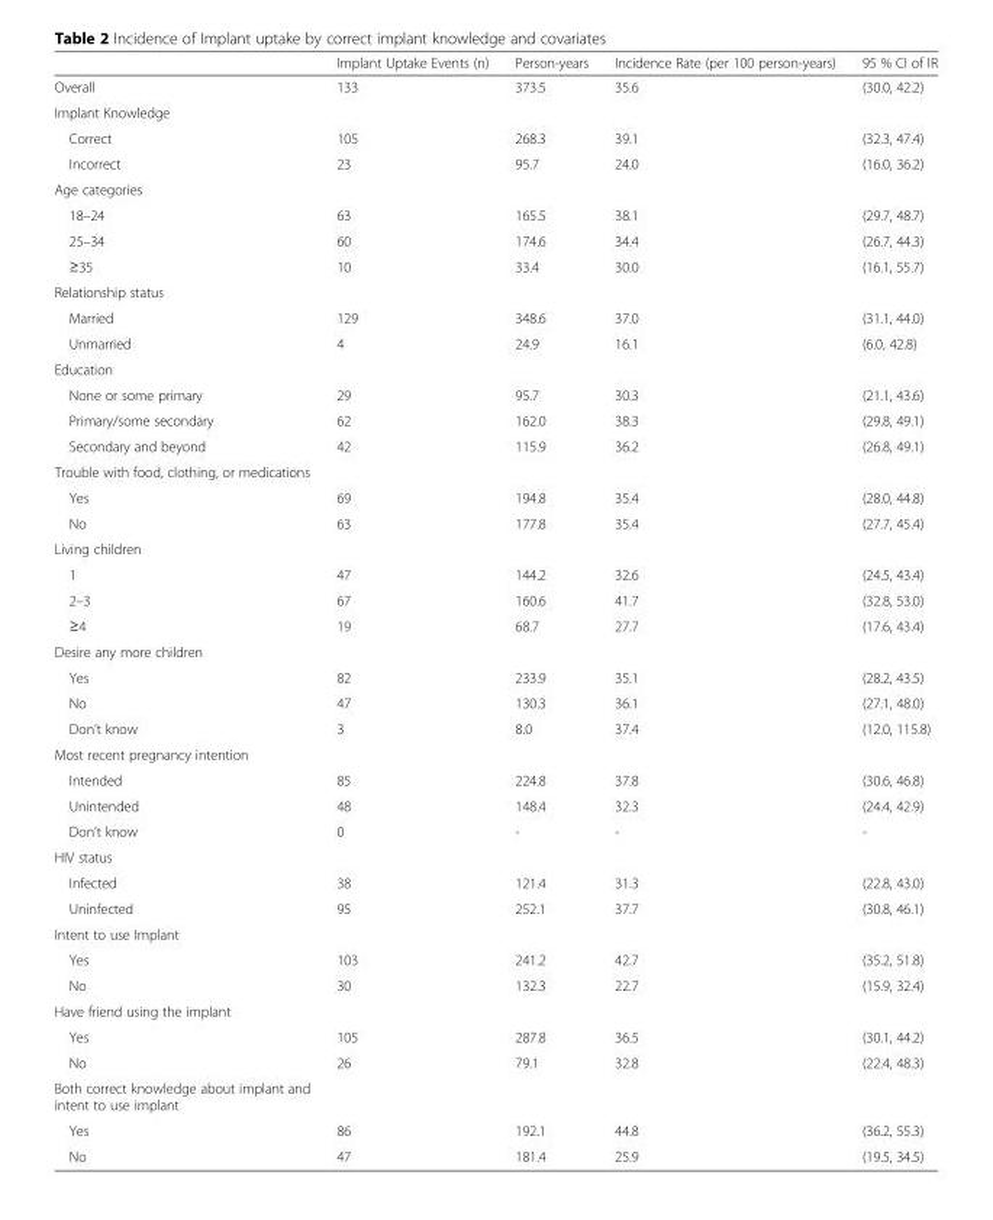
<table><thead><tr><td></td><td>Implant Uptake Events (n)</td><td>Person-years</td><td>Incidence Rate (per 100 person-years)</td><td>95 % CI of IR</td></tr></thead><tbody><tr><td>Overall</td><td>133</td><td>373.5</td><td>35.6</td><td>(30.0, 42.2)</td></tr><tr><td colspan="5">Implant Knowledge</td></tr><tr><td>Correct</td><td>105</td><td>268.3</td><td>39.1</td><td>(32.3, 47.4)</td></tr><tr><td>Incorrect</td><td>23</td><td>95.7</td><td>24.0</td><td>(16.0, 36.2)</td></tr><tr><td colspan="5">Age categories</td></tr><tr><td>18–24</td><td>63</td><td>165.5</td><td>38.1</td><td>(29.7, 48.7)</td></tr><tr><td>25–34</td><td>60</td><td>174.6</td><td>34.4</td><td>(26.7, 44.3)</td></tr><tr><td>≥35</td><td>10</td><td>33.4</td><td>30.0</td><td>(16.1, 55.7)</td></tr><tr><td colspan="5">Relationship status</td></tr><tr><td>Married</td><td>129</td><td>348.6</td><td>37.0</td><td>(31.1, 44.0)</td></tr><tr><td>Unmarried</td><td>4</td><td>24.9</td><td>16.1</td><td>(6.0, 42.8)</td></tr><tr><td colspan="5">Education</td></tr><tr><td>None or some primary</td><td>29</td><td>95.7</td><td>30.3</td><td>(21.1, 43.6)</td></tr><tr><td>Primary/some secondary</td><td>62</td><td>162.0</td><td>38.3</td><td>(29.8, 49.1)</td></tr><tr><td>Secondary and beyond</td><td>42</td><td>115.9</td><td>36.2</td><td>(26.8, 49.1)</td></tr><tr><td colspan="5">Trouble with food, clothing, or medications</td></tr><tr><td>Yes</td><td>69</td><td>194.8</td><td>35.4</td><td>(28.0, 44.8)</td></tr><tr><td>No</td><td>63</td><td>177.8</td><td>35.4</td><td>(27.7, 45.4)</td></tr><tr><td colspan="5">Living children</td></tr><tr><td>1</td><td>47</td><td>144.2</td><td>32.6</td><td>(24.5, 43.4)</td></tr><tr><td>2–3</td><td>67</td><td>160.6</td><td>41.7</td><td>(32.8, 53.0)</td></tr><tr><td>≥4</td><td>19</td><td>68.7</td><td>27.7</td><td>(17.6, 43.4)</td></tr><tr><td colspan="5">Desire any more children</td></tr><tr><td>Yes</td><td>82</td><td>233.9</td><td>35.1</td><td>(28.2, 43.5)</td></tr><tr><td>No</td><td>47</td><td>130.3</td><td>36.1</td><td>(27.1, 48.0)</td></tr><tr><td>Don’t know</td><td>3</td><td>8.0</td><td>37.4</td><td>(12.0, 115.8)</td></tr><tr><td colspan="5">Most recent pregnancy intention</td></tr><tr><td>Intended</td><td>85</td><td>224.8</td><td>37.8</td><td>(30.6, 46.8)</td></tr><tr><td>Unintended</td><td>48</td><td>148.4</td><td>32.3</td><td>(24.4, 42.9)</td></tr><tr><td>Don’t know</td><td>0</td><td>-</td><td>-</td><td>-</td></tr><tr><td colspan="5">HIV status</td></tr><tr><td>Infected</td><td>38</td><td>121.4</td><td>31.3</td><td>(22.8, 43.0)</td></tr><tr><td>Uninfected</td><td>95</td><td>252.1</td><td>37.7</td><td>(30.8, 46.1)</td></tr><tr><td colspan="5">Intent to use Implant</td></tr><tr><td>Yes</td><td>103</td><td>241.2</td><td>42.7</td><td>(35.2, 51.8)</td></tr><tr><td>No</td><td>30</td><td>132.3</td><td>22.7</td><td>(15.9, 32.4)</td></tr><tr><td colspan="5">Have friend using the implant</td></tr><tr><td>Yes</td><td>105</td><td>287.8</td><td>36.5</td><td>(30.1, 44.2)</td></tr><tr><td>No</td><td>26</td><td>79.1</td><td>32.8</td><td>(22.4, 48.3)</td></tr><tr><td colspan="5">Both correct knowledge about implant and intent to use implant</td></tr><tr><td>Yes</td><td>86</td><td>192.1</td><td>44.8</td><td>(36.2, 55.3)</td></tr><tr><td>No</td><td>47</td><td>181.4</td><td>25.9</td><td>(19.5, 34.5)</td></tr></tbody></table>